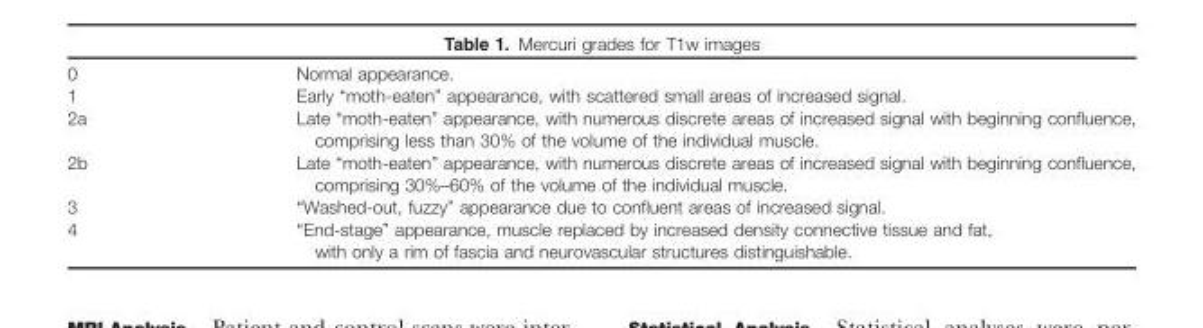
<table><tbody><tr><td>0</td><td>Normal appearance.</td></tr><tr><td>1</td><td>Early “moth-eaten” appearance, with scattered small areas of increased signal.</td></tr><tr><td>2a</td><td>Late “moth-eaten” appearance, with numerous discrete areas of increased signal with beginning confluence, comprising less than 30% of the volume of the individual muscle.</td></tr><tr><td>2b</td><td>Late “moth-eaten” appearance, with numerous discrete areas of increased signal with beginning confluence, comprising 30%–60% of the volume of the individual muscle.</td></tr><tr><td>3</td><td>“Washed-out, fuzzy” appearance due to confluent areas of increased signal.</td></tr><tr><td>4</td><td>“End-stage” appearance, muscle replaced by increased density connective tissue and fat, with only a rim of fascia and neurovascular structures distinguishable.</td></tr></tbody></table>